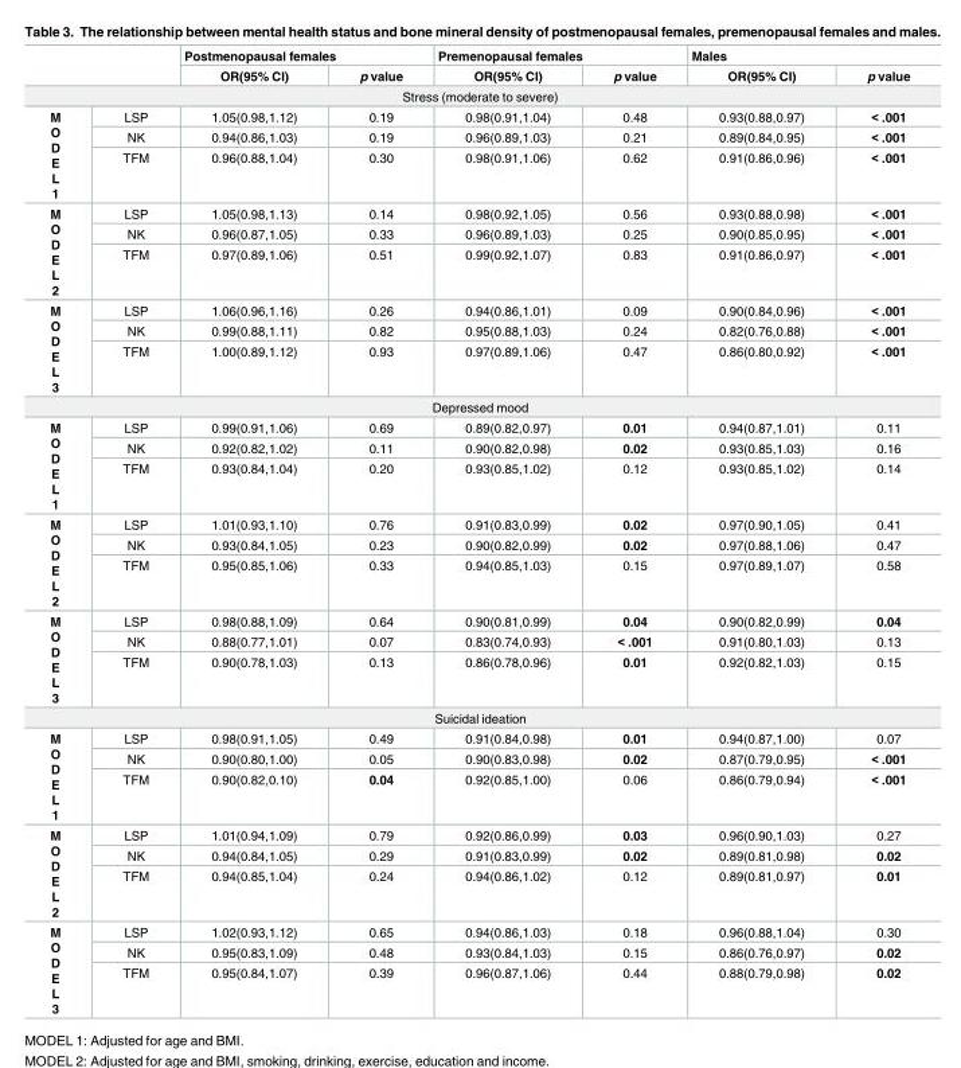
<table><thead><tr><td rowspan="2"></td><td rowspan="2"></td><td colspan="2">Postmenopausal females</td><td colspan="2">Premenopausal females</td><td colspan="2">Males</td></tr><tr><td>OR(95% CI)</td><td>p value</td><td>OR(95% CI)</td><td>p value</td><td>OR(95% CI)</td><td>p value</td></tr></thead><tbody><tr><td colspan="8">Stress (moderate to severe)</td></tr><tr><td rowspan="3">M O D E L 1</td><td>LSP</td><td>1.05(0.98,1.12)</td><td>0.19</td><td>0.98(0.91,1.04)</td><td>0.48</td><td>0.93(0.88,0.97)</td><td>&lt; .001</td></tr><tr><td>NK</td><td>0.94(0.86,1.03)</td><td>0.19</td><td>0.96(0.89,1.03)</td><td>0.21</td><td>0.89(0.84,0.95)</td><td>&lt; .001</td></tr><tr><td>TFM</td><td>0.96(0.88,1.04)</td><td>0.30</td><td>0.98(0.91,1.06)</td><td>0.62</td><td>0.91(0.86,0.96)</td><td>&lt; .001</td></tr><tr><td rowspan="3">M O D E L 2</td><td>LSP</td><td>1.05(0.98,1.13)</td><td>0.14</td><td>0.98(0.92,1.05)</td><td>0.56</td><td>0.93(0.88,0.98)</td><td>&lt; .001</td></tr><tr><td>NK</td><td>0.96(0.87,1.05)</td><td>0.33</td><td>0.96(0.89,1.03)</td><td>0.25</td><td>0.90(0.85,0.95)</td><td>&lt; .001</td></tr><tr><td>TFM</td><td>0.97(0.89,1.06)</td><td>0.51</td><td>0.99(0.92,1.07)</td><td>0.83</td><td>0.91(0.86,0.97)</td><td>&lt; .001</td></tr><tr><td rowspan="3">M O D E L 3</td><td>LSP</td><td>1.06(0.96,1.16)</td><td>0.26</td><td>0.94(0.86,1.01)</td><td>0.09</td><td>0.90(0.84,0.96)</td><td>&lt; .001</td></tr><tr><td>NK</td><td>0.99(0.88,1.11)</td><td>0.82</td><td>0.95(0.88,1.03)</td><td>0.24</td><td>0.82(0.76,0.88)</td><td>&lt; .001</td></tr><tr><td>TFM</td><td>1.00(0.89,1.12)</td><td>0.93</td><td>0.97(0.89,1.06)</td><td>0.47</td><td>0.86(0.80,0.92)</td><td>&lt; .001</td></tr><tr><td colspan="8">Depressed mood</td></tr><tr><td rowspan="3">M O D E L 1</td><td>LSP</td><td>0.99(0.91,1.06)</td><td>0.69</td><td>0.89(0.82,0.97)</td><td>0.01</td><td>0.94(0.87,1.01)</td><td>0.11</td></tr><tr><td>NK</td><td>0.92(0.82,1.02)</td><td>0.11</td><td>0.90(0.82,0.98)</td><td>0.02</td><td>0.93(0.85,1.03)</td><td>0.16</td></tr><tr><td>TFM</td><td>0.93(0.84,1.04)</td><td>0.20</td><td>0.93(0.85,1.02)</td><td>0.12</td><td>0.93(0.85,1.02)</td><td>0.14</td></tr><tr><td rowspan="3">M O D E L 2</td><td>LSP</td><td>1.01(0.93,1.10)</td><td>0.76</td><td>0.91(0.83,0.99)</td><td>0.02</td><td>0.97(0.90,1.05)</td><td>0.41</td></tr><tr><td>NK</td><td>0.93(0.84,1.05)</td><td>0.23</td><td>0.90(0.82,0.99)</td><td>0.02</td><td>0.97(0.88,1.06)</td><td>0.47</td></tr><tr><td>TFM</td><td>0.95(0.85,1.06)</td><td>0.33</td><td>0.94(0.85,1.03)</td><td>0.15</td><td>0.97(0.89,1.07)</td><td>0.58</td></tr><tr><td rowspan="3">M O D E L 3</td><td>LSP</td><td>0.98(0.88,1.09)</td><td>0.64</td><td>0.90(0.81,0.99)</td><td>0.04</td><td>0.90(0.82,0.99)</td><td>0.04</td></tr><tr><td>NK</td><td>0.88(0.77,1.01)</td><td>0.07</td><td>0.83(0.74,0.93)</td><td>&lt; .001</td><td>0.91(0.80,1.03)</td><td>0.13</td></tr><tr><td>TFM</td><td>0.90(0.78,1.03)</td><td>0.13</td><td>0.86(0.78,0.96)</td><td>0.01</td><td>0.92(0.82,1.03)</td><td>0.15</td></tr><tr><td colspan="8">Suicidal ideation</td></tr><tr><td rowspan="3">M O D E L 1</td><td>LSP</td><td>0.98(0.91,1.05)</td><td>0.49</td><td>0.91(0.84,0.98)</td><td>0.01</td><td>0.94(0.87,1.00)</td><td>0.07</td></tr><tr><td>NK</td><td>0.90(0.80,1.00)</td><td>0.05</td><td>0.90(0.83,0.98)</td><td>0.02</td><td>0.87(0.79,0.95)</td><td>&lt; .001</td></tr><tr><td>TFM</td><td>0.90(0.82,0.10)</td><td>0.04</td><td>0.92(0.85,1.00)</td><td>0.06</td><td>0.86(0.79,0.94)</td><td>&lt; .001</td></tr><tr><td rowspan="3">M O D E L 2</td><td>LSP</td><td>1.01(0.94,1.09)</td><td>0.79</td><td>0.92(0.86,0.99)</td><td>0.03</td><td>0.96(0.90,1.03)</td><td>0.27</td></tr><tr><td>NK</td><td>0.94(0.84,1.05)</td><td>0.29</td><td>0.91(0.83,0.99)</td><td>0.02</td><td>0.89(0.81,0.98)</td><td>0.02</td></tr><tr><td>TFM</td><td>0.94(0.85,1.04)</td><td>0.24</td><td>0.94(0.86,1.02)</td><td>0.12</td><td>0.89(0.81,0.97)</td><td>0.01</td></tr><tr><td rowspan="3">M O D E L 3</td><td>LSP</td><td>1.02(0.93,1.12)</td><td>0.65</td><td>0.94(0.86,1.03)</td><td>0.18</td><td>0.96(0.88,1.04)</td><td>0.30</td></tr><tr><td>NK</td><td>0.95(0.83,1.09)</td><td>0.48</td><td>0.93(0.84,1.03)</td><td>0.15</td><td>0.86(0.76,0.97)</td><td>0.02</td></tr><tr><td>TFM</td><td>0.95(0.84,1.07)</td><td>0.39</td><td>0.96(0.87,1.06)</td><td>0.44</td><td>0.88(0.79,0.98)</td><td>0.02</td></tr></tbody></table>